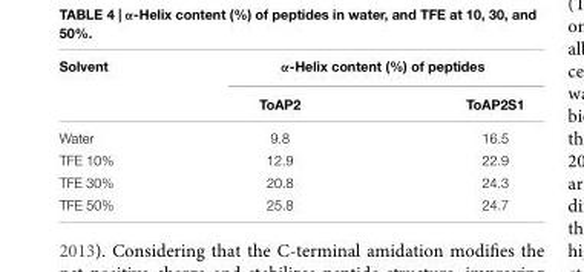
<table><thead><tr><td rowspan="2">Solvent</td><td colspan="2">α-Helix content (%) of peptides</td></tr><tr><td>ToAP2</td><td>ToAP2S1</td></tr></thead><tbody><tr><td>Water</td><td>9.8</td><td>16.5</td></tr><tr><td>TFE 10%</td><td>12.9</td><td>22.9</td></tr><tr><td>TFE 30%</td><td>20.8</td><td>24.3</td></tr><tr><td>TFE 50%</td><td>25.8</td><td>24.7</td></tr></tbody></table>